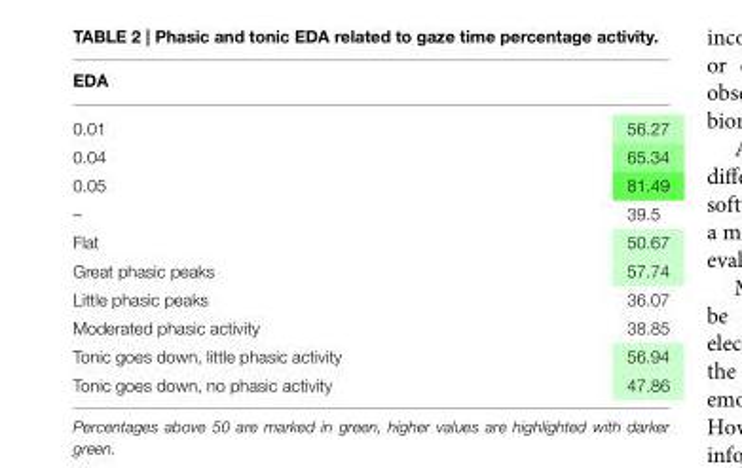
<table><thead><tr><td>EDA</td><td></td></tr></thead><tbody><tr><td>0.01</td><td>56.27</td></tr><tr><td>0.04</td><td>65.34</td></tr><tr><td>0.05</td><td>81.49</td></tr><tr><td>–</td><td>39.5</td></tr><tr><td>Flat</td><td>50.67</td></tr><tr><td>Great phasic peaks</td><td>57.74</td></tr><tr><td>Little phasic peaks</td><td>36.07</td></tr><tr><td>Moderated phasic activity</td><td>38.85</td></tr><tr><td>Tonic goes down, little phasic activity</td><td>56.94</td></tr><tr><td>Tonic goes down, no phasic activity</td><td>47.86</td></tr></tbody></table>